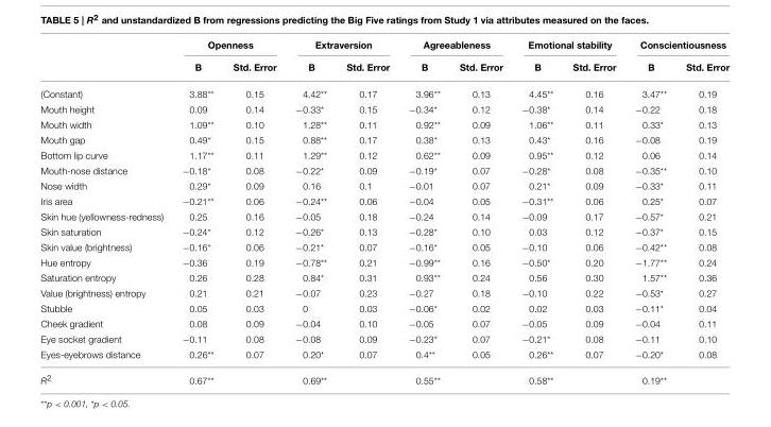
<table><thead><tr><td rowspan="2"></td><td colspan="2">Openness</td><td colspan="2">Extraversion</td><td colspan="2">Agreeableness</td><td colspan="2">Emotional stability</td><td colspan="2">Conscientiousness</td></tr><tr><td>B</td><td>Std. Error</td><td>B</td><td>Std. Error</td><td>B</td><td>Std. Error</td><td>B</td><td>Std. Error</td><td>B</td><td>Std. Error</td></tr></thead><tbody><tr><td>(Constant)</td><td>3.88**</td><td>0.15</td><td>4.42**</td><td>0.17</td><td>3.96**</td><td>0.13</td><td>4.45**</td><td>0.16</td><td>3.47**</td><td>0.19</td></tr><tr><td>Mouth height</td><td>0.09</td><td>0.14</td><td>−0.33*</td><td>0.15</td><td>−0.34*</td><td>0.12</td><td>−0.38*</td><td>0.14</td><td>−0.22</td><td>0.18</td></tr><tr><td>Mouth width</td><td>1.09**</td><td>0.10</td><td>1.28**</td><td>0.11</td><td>0.92**</td><td>0.09</td><td>1.06**</td><td>0.11</td><td>0.33*</td><td>0.13</td></tr><tr><td>Mouth gap</td><td>0.49*</td><td>0.15</td><td>0.88**</td><td>0.17</td><td>0.38*</td><td>0.13</td><td>0.43*</td><td>0.16</td><td>−0.08</td><td>0.19</td></tr><tr><td>Bottom lip curve</td><td>1.17**</td><td>0.11</td><td>1.29**</td><td>0.12</td><td>0.62**</td><td>0.09</td><td>0.95**</td><td>0.12</td><td>0.06</td><td>0.14</td></tr><tr><td>Mouth-nose distance</td><td>−0.18*</td><td>0.08</td><td>−0.22*</td><td>0.09</td><td>−0.19*</td><td>0.07</td><td>−0.28*</td><td>0.08</td><td>−0.35**</td><td>0.10</td></tr><tr><td>Nose width</td><td>0.29*</td><td>0.09</td><td>0.16</td><td>0.1</td><td>−0.01</td><td>0.07</td><td>0.21*</td><td>0.09</td><td>−0.33*</td><td>0.11</td></tr><tr><td>Iris area</td><td>−0.21**</td><td>0.06</td><td>−0.24**</td><td>0.06</td><td>−0.04</td><td>0.05</td><td>−0.31**</td><td>0.06</td><td>0.25*</td><td>0.07</td></tr><tr><td>Skin hue (yellowness-redness)</td><td>0.25</td><td>0.16</td><td>−0.05</td><td>0.18</td><td>−0.24</td><td>0.14</td><td>−0.09</td><td>0.17</td><td>−0.57*</td><td>0.21</td></tr><tr><td>Skin saturation</td><td>−0.24*</td><td>0.12</td><td>−0.26*</td><td>0.13</td><td>−0.28*</td><td>0.10</td><td>0.03</td><td>0.12</td><td>−0.37*</td><td>0.15</td></tr><tr><td>Skin value (brightness)</td><td>−0.16*</td><td>0.06</td><td>−0.21*</td><td>0.07</td><td>−0.16*</td><td>0.05</td><td>−0.10</td><td>0.06</td><td>−0.42**</td><td>0.08</td></tr><tr><td>Hue entropy</td><td>−0.36</td><td>0.19</td><td>−0.78**</td><td>0.21</td><td>−0.99**</td><td>0.16</td><td>−0.50*</td><td>0.20</td><td>−1.77**</td><td>0.24</td></tr><tr><td>Saturation entropy</td><td>0.26</td><td>0.28</td><td>0.84*</td><td>0.31</td><td>0.93**</td><td>0.24</td><td>0.56</td><td>0.30</td><td>1.57**</td><td>0.36</td></tr><tr><td>Value (brightness) entropy</td><td>0.21</td><td>0.21</td><td>−0.07</td><td>0.23</td><td>−0.27</td><td>0.18</td><td>−0.10</td><td>0.22</td><td>−0.53*</td><td>0.27</td></tr><tr><td>Stubble</td><td>0.05</td><td>0.03</td><td>0</td><td>0.03</td><td>−0.06*</td><td>0.02</td><td>0.02</td><td>0.03</td><td>−0.11*</td><td>0.04</td></tr><tr><td>Cheek gradient</td><td>0.08</td><td>0.09</td><td>−0.04</td><td>0.10</td><td>−0.05</td><td>0.07</td><td>−0.05</td><td>0.09</td><td>−0.04</td><td>0.11</td></tr><tr><td>Eye socket gradient</td><td>−0.11</td><td>0.08</td><td>−0.08</td><td>0.09</td><td>−0.23*</td><td>0.07</td><td>−0.21*</td><td>0.08</td><td>−0.11</td><td>0.10</td></tr><tr><td>Eyes-eyebrows distance</td><td>0.26**</td><td>0.07</td><td>0.20*</td><td>0.07</td><td>0.4**</td><td>0.05</td><td>0.26**</td><td>0.07</td><td>−0.20*</td><td>0.08</td></tr><tr><td>R<sup>2</sup></td><td>0.67**</td><td></td><td>0.69**</td><td></td><td>0.55**</td><td></td><td>0.58**</td><td></td><td>0.19**</td><td></td></tr></tbody></table>